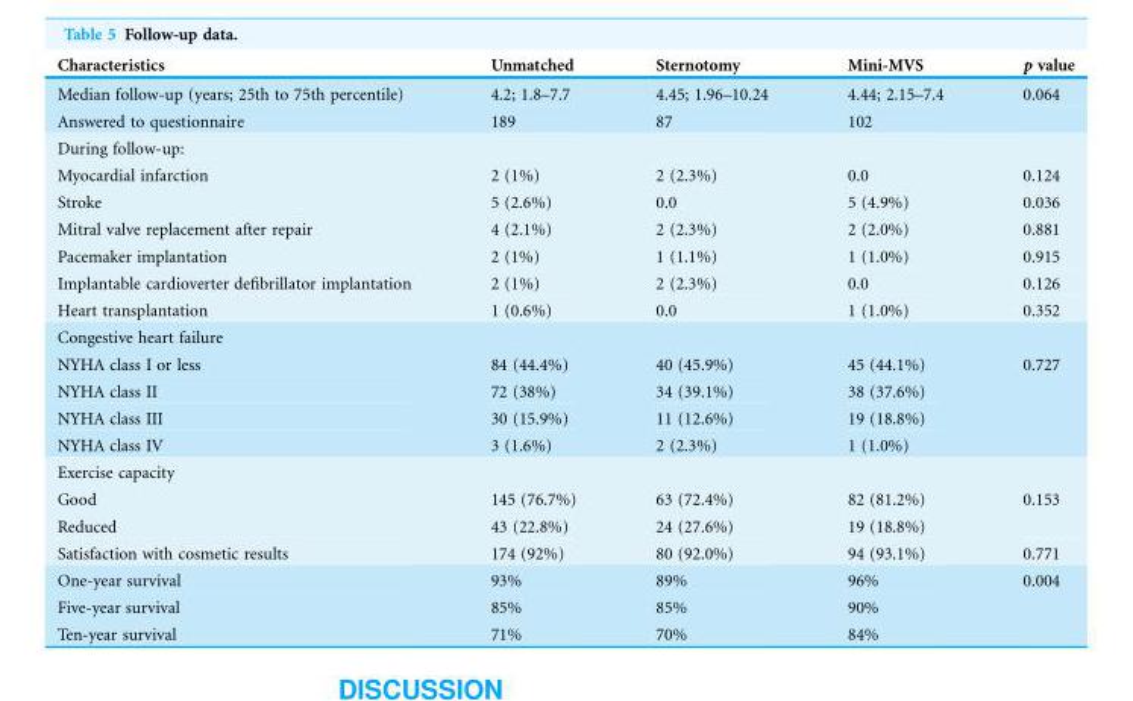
<table><thead><tr><td>Characteristics</td><td>Unmatched</td><td>Sternotomy</td><td>Mini-MVS</td><td>p value</td></tr></thead><tbody><tr><td>Median follow-up (years; 25th to 75th percentile)</td><td>4.2; 1.8–7.7</td><td>4.45; 1.96–10.24</td><td>4.44; 2.15–7.4</td><td>0.064</td></tr><tr><td>Answered to questionnaire</td><td>189</td><td>87</td><td>102</td><td></td></tr><tr><td colspan="5">During follow-up:</td></tr><tr><td>Myocardial infarction</td><td>2 (1%)</td><td>2 (2.3%)</td><td>0.0</td><td>0.124</td></tr><tr><td>Stroke</td><td>5 (2.6%)</td><td>0.0</td><td>5 (4.9%)</td><td>0.036</td></tr><tr><td>Mitral valve replacement after repair</td><td>4 (2.1%)</td><td>2 (2.3%)</td><td>2 (2.0%)</td><td>0.881</td></tr><tr><td>Pacemaker implantation</td><td>2 (1%)</td><td>1 (1.1%)</td><td>1 (1.0%)</td><td>0.915</td></tr><tr><td>Implantable cardioverter defibrillator implantation</td><td>2 (1%)</td><td>2 (2.3%)</td><td>0.0</td><td>0.126</td></tr><tr><td>Heart transplantation</td><td>1 (0.6%)</td><td>0.0</td><td>1 (1.0%)</td><td>0.352</td></tr><tr><td colspan="5">Congestive heart failure</td></tr><tr><td>NYHA class I or less</td><td>84 (44.4%)</td><td>40 (45.9%)</td><td>45 (44.1%)</td><td rowspan="4">0.727</td></tr><tr><td>NYHA class II</td><td>72 (38%)</td><td>34 (39.1%)</td><td>38 (37.6%)</td></tr><tr><td>NYHA class III</td><td>30 (15.9%)</td><td>11 (12.6%)</td><td>19 (18.8%)</td></tr><tr><td>NYHA class IV</td><td>3 (1.6%)</td><td>2 (2.3%)</td><td>1 (1.0%)</td></tr><tr><td colspan="5">Exercise capacity</td></tr><tr><td>Good</td><td>145 (76.7%)</td><td>63 (72.4%)</td><td>82 (81.2%)</td><td rowspan="2">0.153</td></tr><tr><td>Reduced</td><td>43 (22.8%)</td><td>24 (27.6%)</td><td>19 (18.8%)</td></tr><tr><td>Satisfaction with cosmetic results</td><td>174 (92%)</td><td>80 (92.0%)</td><td>94 (93.1%)</td><td>0.771</td></tr><tr><td>One-year survival</td><td>93%</td><td>89%</td><td>96%</td><td rowspan="3">0.004</td></tr><tr><td>Five-year survival</td><td>85%</td><td>85%</td><td>90%</td></tr><tr><td>Ten-year survival</td><td>71%</td><td>70%</td><td>84%</td></tr></tbody></table>